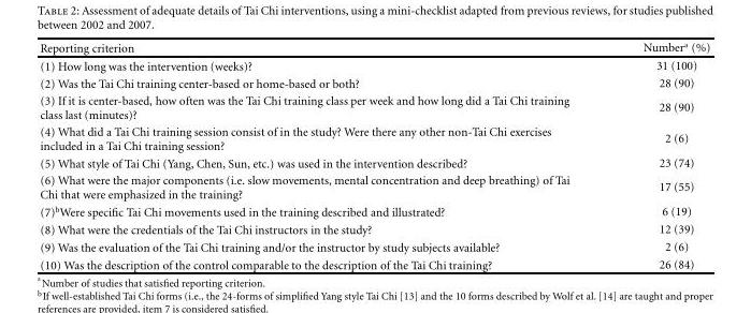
<table><thead><tr><td>Reporting criterion</td><td>Number<sup>a</sup> (%)</td></tr></thead><tbody><tr><td>(1) How long was the intervention (weeks)?</td><td>31 (100)</td></tr><tr><td>(2) Was the Tai Chi training center-based or home-based or both?</td><td>28 (90)</td></tr><tr><td>(3) If it is center-based, how often was the Tai Chi training class per week and how long did a Tai Chi training class last (minutes)?</td><td>28 (90)</td></tr><tr><td>(4) What did a Tai Chi training session consist of in the study? Were there any other non-Tai Chi exercises included in a Tai Chi training session?</td><td>2 (6)</td></tr><tr><td>(5) What style of Tai Chi (Yang, Chen, Sun, etc.) was used in the intervention described?</td><td>23 (74)</td></tr><tr><td>(6) What were the major components (i.e. slow movements, mental concentration and deep breathing) of Tai Chi that were emphasized in the training?</td><td>17 (55)</td></tr><tr><td>(7)<sup>b</sup>Were specific Tai Chi movements used in the training described and illustrated?</td><td>6 (19)</td></tr><tr><td>(8) What were the credentials of the Tai Chi instructors in the study?</td><td>12 (39)</td></tr><tr><td>(9) Was the evaluation of the Tai Chi training and/or the instructor by study subjects available?</td><td>2 (6)</td></tr><tr><td>(10) Was the description of the control comparable to the description of the Tai Chi training?</td><td>26 (84)</td></tr></tbody></table>